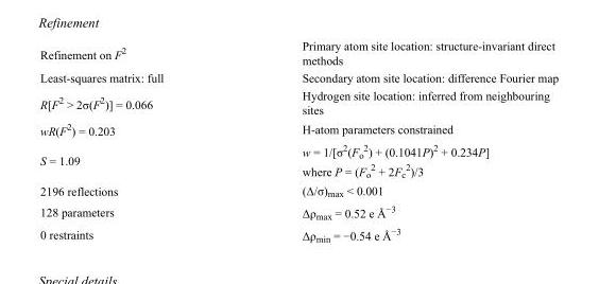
<table><tbody><tr><td>Refinement on F<sup>2</sup></td><td>Primary atom site location: structure-invariant direct methods</td></tr><tr><td>Least-squares matrix: full</td><td>Secondary atom site location: difference Fourier map</td></tr><tr><td>R[F<sup>2</sup> &gt; 2σ(F<sup>2</sup>)] = 0.066</td><td>Hydrogen site location: inferred from neighbouring sites</td></tr><tr><td>wR(F<sup>2</sup>) = 0.203</td><td>H-atom parameters constrained</td></tr><tr><td>S = 1.09</td><td>w = 1/[σ<sup>2</sup>(F<sub>o</sub> <sup>2</sup>) + (0.1041P)<sup>2</sup> + 0.234P] where P = (F<sub>o</sub> <sup>2</sup> + 2F<sub>c</sub> <sup>2</sup>)/3</td></tr><tr><td>2196 reflections</td><td>(Δ/σ)<sub>max</sub> &lt; 0.001</td></tr><tr><td>128 parameters</td><td>Δρ<sub>max</sub> = 0.52 e Å<sup>−3</sup></td></tr><tr><td>0 restraints</td><td>Δρ<sub>min</sub> = −0.54 e Å<sup>−3</sup></td></tr></tbody></table>